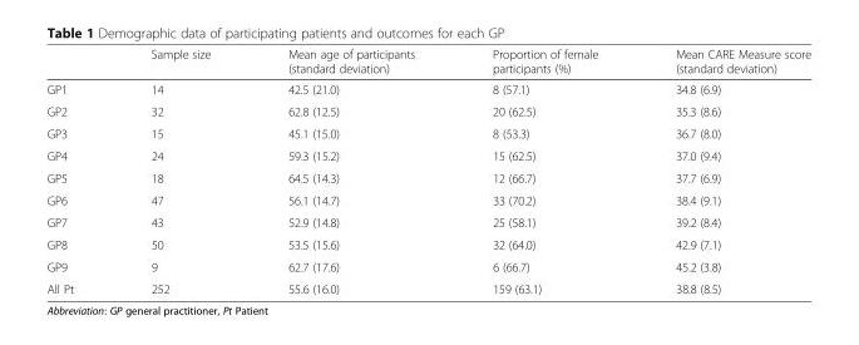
<table><thead><tr><td></td><td>Sample size</td><td>Mean age of participants (standard deviation)</td><td>Proportion of female participants (%)</td><td>Mean CARE Measure score (standard deviation)</td></tr></thead><tbody><tr><td>GP1</td><td>14</td><td>42.5 (21.0)</td><td>8 (57.1)</td><td>34.8 (6.9)</td></tr><tr><td>GP2</td><td>32</td><td>62.8 (12.5)</td><td>20 (62.5)</td><td>35.3 (8.6)</td></tr><tr><td>GP3</td><td>15</td><td>45.1 (15.0)</td><td>8 (53.3)</td><td>36.7 (8.0)</td></tr><tr><td>GP4</td><td>24</td><td>59.3 (15.2)</td><td>15 (62.5)</td><td>37.0 (9.4)</td></tr><tr><td>GP5</td><td>18</td><td>64.5 (14.3)</td><td>12 (66.7)</td><td>37.7 (6.9)</td></tr><tr><td>GP6</td><td>47</td><td>56.1 (14.7)</td><td>33 (70.2)</td><td>38.4 (9.1)</td></tr><tr><td>GP7</td><td>43</td><td>52.9 (14.8)</td><td>25 (58.1)</td><td>39.2 (8.4)</td></tr><tr><td>GP8</td><td>50</td><td>53.5 (15.6)</td><td>32 (64.0)</td><td>42.9 (7.1)</td></tr><tr><td>GP9</td><td>9</td><td>62.7 (17.6)</td><td>6 (66.7)</td><td>45.2 (3.8)</td></tr><tr><td>All Pt</td><td>252</td><td>55.6 (16.0)</td><td>159 (63.1)</td><td>38.8 (8.5)</td></tr></tbody></table>